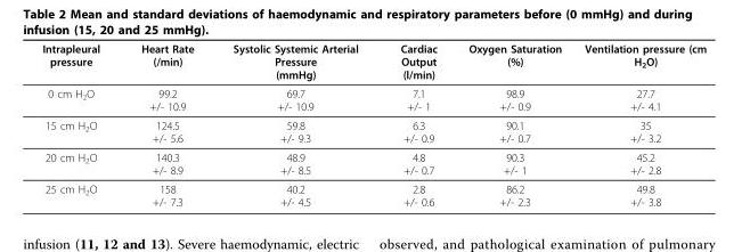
<table><thead><tr><td>Intrapleural pressure</td><td>Heart Rate (/min)</td><td>Systolic Systemic Arterial Pressure (mmHg)</td><td>Cardiac Output (l/min)</td><td>Oxygen Saturation (%)</td><td>Ventilation pressure (cm H<sub>2</sub>O)</td></tr></thead><tbody><tr><td>0 cm H<sub>2</sub>O</td><td>99.2 +/- 10.9</td><td>69.7 +/- 10.9</td><td>7.1 +/- 1</td><td>98.9 +/- 0.9</td><td>27.7 +/- 4.1</td></tr><tr><td>15 cm H<sub>2</sub>O</td><td>124.5 +/- 5.6</td><td>59.8 +/- 9.3</td><td>6.3 +/- 0.9</td><td>90.1 +/- 0.7</td><td>35 +/- 3.2</td></tr><tr><td>20 cm H<sub>2</sub>O</td><td>140.3 +/- 8.9</td><td>48.9 +/- 8.5</td><td>4.8 +/- 0.7</td><td>90.3 +/- 1</td><td>45.2 +/- 2.8</td></tr><tr><td>25 cm H<sub>2</sub>O</td><td>158 +/- 7.3</td><td>40.2 +/- 4.5</td><td>2.8 +/- 0.6</td><td>86.2 +/- 2.3</td><td>49.8 +/- 3.8</td></tr></tbody></table>